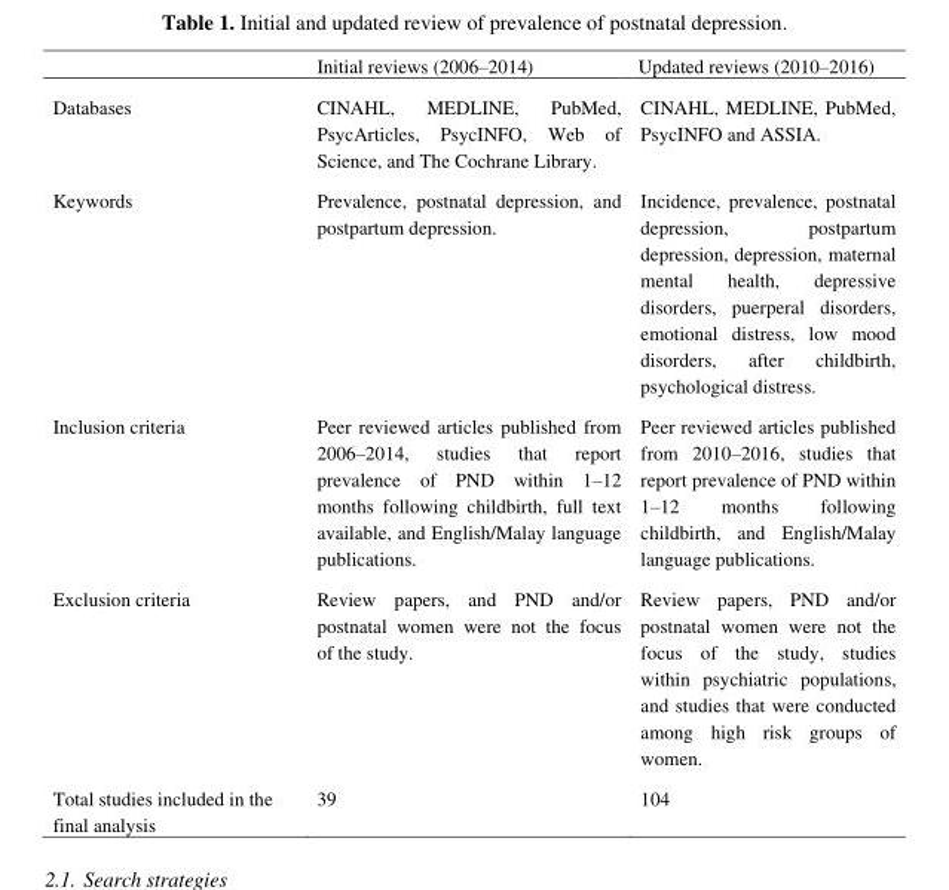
<table><thead><tr><td></td><td>Initial reviews (2006–2014)</td><td>Updated reviews (2010–2016)</td></tr></thead><tbody><tr><td>Databases</td><td>CINAHL, MEDLINE, PubMed, PsycArticles, PsycINFO, Web of Science, and The Cochrane Library.</td><td>CINAHL, MEDLINE, PubMed, PsycINFO and ASSIA.</td></tr><tr><td>Keywords</td><td>Prevalence, postnatal depression, and postpartum depression.</td><td>Incidence, prevalence, postnatal depression, postpartum depression, depression, maternal mental health, depressive disorders, puerperal disorders, emotional distress, low mood disorders, after childbirth, psychological distress.</td></tr><tr><td>Inclusion criteria</td><td>Peer reviewed articles published from 2006–2014, studies that report prevalence of PND within 1–12 months following childbirth, full text available, and English/Malay language publications.</td><td>Peer reviewed articles published from 2010–2016, studies that report prevalence of PND within 1–12 months following childbirth, and English/Malay language publications.</td></tr><tr><td>Exclusion criteria</td><td>Review papers, and PND and/or postnatal women were not the focus of the study.</td><td>Review papers, PND and/or postnatal women were not the focus of the study, studies within psychiatric populations, and studies that were conducted among high risk groups of women.</td></tr><tr><td>Total studies included in the final analysis</td><td>39</td><td>104</td></tr></tbody></table>